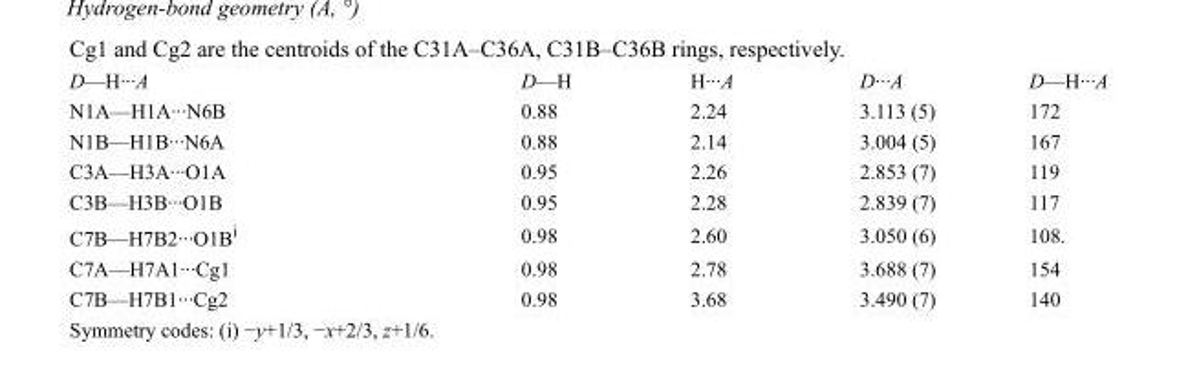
<table><tbody><tr><td>D—H···A</td><td>D—H</td><td>H···A</td><td>D···A</td><td>D—H···A</td></tr><tr><td>N1A—H1A···N6B</td><td>0.88</td><td>2.24</td><td>3.113 (5)</td><td>172</td></tr><tr><td>N1B—H1B···N6A</td><td>0.88</td><td>2.14</td><td>3.004 (5)</td><td>167</td></tr><tr><td>C3A—H3A···O1A</td><td>0.95</td><td>2.26</td><td>2.853 (7)</td><td>119</td></tr><tr><td>C3B—H3B···O1B</td><td>0.95</td><td>2.28</td><td>2.839 (7)</td><td>117</td></tr><tr><td>C7B—H7B2···O1B<sup>i</sup></td><td>0.98</td><td>2.60</td><td>3.050 (6)</td><td>108.</td></tr><tr><td>C7A—H7A1···Cg1</td><td>0.98</td><td>2.78</td><td>3.688 (7)</td><td>154</td></tr><tr><td>C7B—H7B1···Cg2</td><td>0.98</td><td>3.68</td><td>3.490 (7)</td><td>140</td></tr></tbody></table>